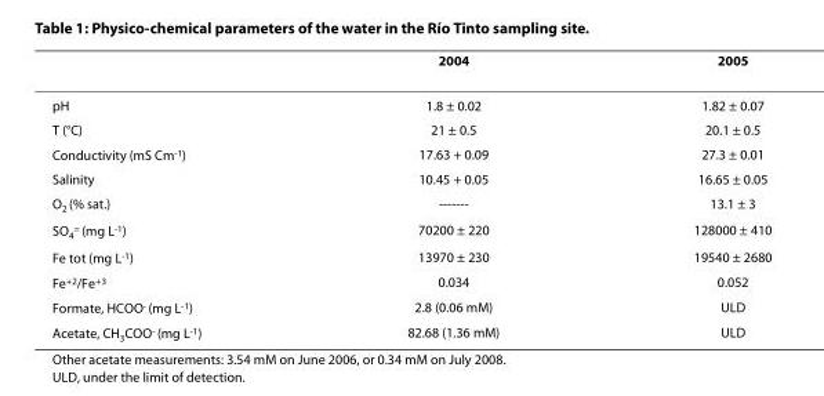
<table><thead><tr><td></td><td>2004</td><td>2005</td></tr></thead><tbody><tr><td>pH</td><td>1.8 ± 0.02</td><td>1.82 ± 0.07</td></tr><tr><td>T (°C)</td><td>21 ± 0.5</td><td>20.1 ± 0.5</td></tr><tr><td>Conductivity (mS Cm<sup>-1</sup>)</td><td>17.63 + 0.09</td><td>27.3 ± 0.01</td></tr><tr><td>Salinity</td><td>10.45 + 0.05</td><td>16.65 ± 0.05</td></tr><tr><td>O<sub>2</sub> (% sat.)</td><td>-------</td><td>13.1 ± 3</td></tr><tr><td>SO<sub>4</sub><sup>=</sup> (mg L<sup>-1</sup>)</td><td>70200 ± 220</td><td>128000 ± 410</td></tr><tr><td>Fe tot (mg L<sup>-1</sup>)</td><td>13970 ± 230</td><td>19540 ± 2680</td></tr><tr><td>Fe<sup>+2</sup>/Fe<sup>+3</sup></td><td>0.034</td><td>0.052</td></tr><tr><td>Formate, HCOO<sup>-</sup> (mg L<sup>-1</sup>)</td><td>2.8 (0.06 mM)</td><td>ULD</td></tr><tr><td>Acetate, CH<sub>3</sub>COO<sup>-</sup> (mg L<sup>-1</sup>)</td><td>82.68 (1.36 mM)</td><td>ULD</td></tr></tbody></table>